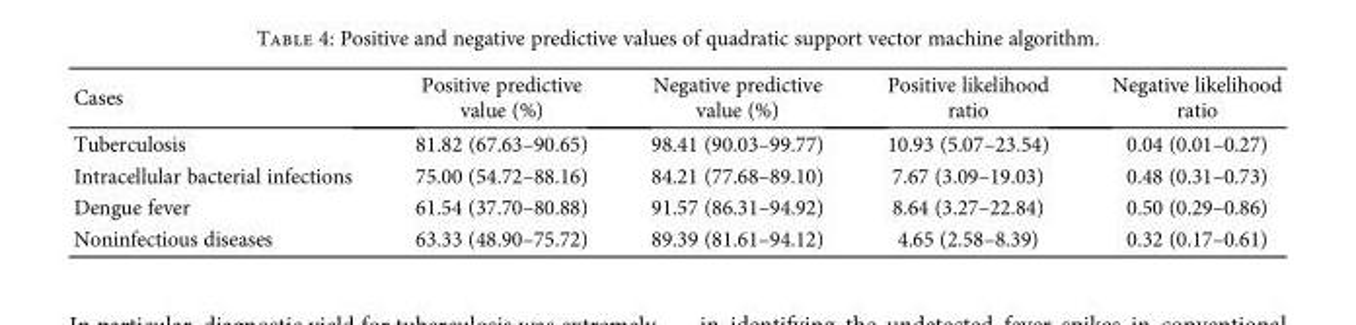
<table><thead><tr><td>Cases</td><td>Positive predictive value (%)</td><td>Negative predictive value (%)</td><td>Positive likelihood ratio</td><td>Negative likelihood ratio</td></tr></thead><tbody><tr><td>Tuberculosis</td><td>81.82 (67.63–90.65)</td><td>98.41 (90.03–99.77)</td><td>10.93 (5.07–23.54)</td><td>0.04 (0.01–0.27)</td></tr><tr><td>Intracellular bacterial infections</td><td>75.00 (54.72–88.16)</td><td>84.21 (77.68–89.10)</td><td>7.67 (3.09–19.03)</td><td>0.48 (0.31–0.73)</td></tr><tr><td>Dengue fever</td><td>61.54 (37.70–80.88)</td><td>91.57 (86.31–94.92)</td><td>8.64 (3.27–22.84)</td><td>0.50 (0.29–0.86)</td></tr><tr><td>Noninfectious diseases</td><td>63.33 (48.90–75.72)</td><td>89.39 (81.61–94.12)</td><td>4.65 (2.58–8.39)</td><td>0.32 (0.17–0.61)</td></tr></tbody></table>